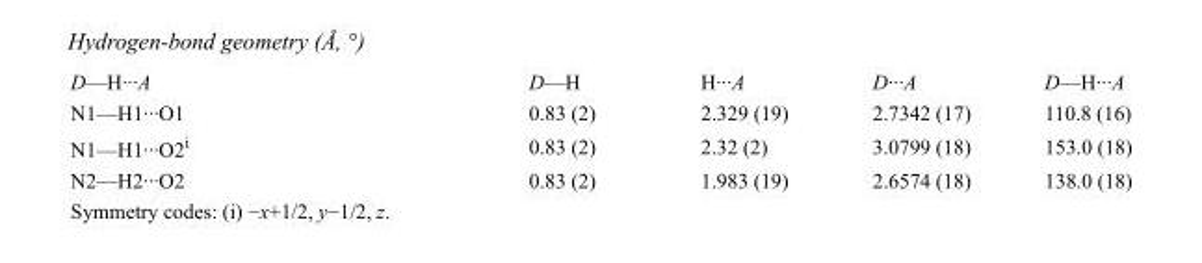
<table><tbody><tr><td>D—H···A</td><td>D—H</td><td>H···A</td><td>D···A</td><td>D—H···A</td></tr><tr><td>N1—H1···O1</td><td>0.83 (2)</td><td>2.329 (19)</td><td>2.7342 (17)</td><td>110.8 (16)</td></tr><tr><td>N1—H1···O2<sup>i</sup></td><td>0.83 (2)</td><td>2.32 (2)</td><td>3.0799 (18)</td><td>153.0 (18)</td></tr><tr><td>N2—H2···O2</td><td>0.83 (2)</td><td>1.983 (19)</td><td>2.6574 (18)</td><td>138.0 (18)</td></tr></tbody></table>